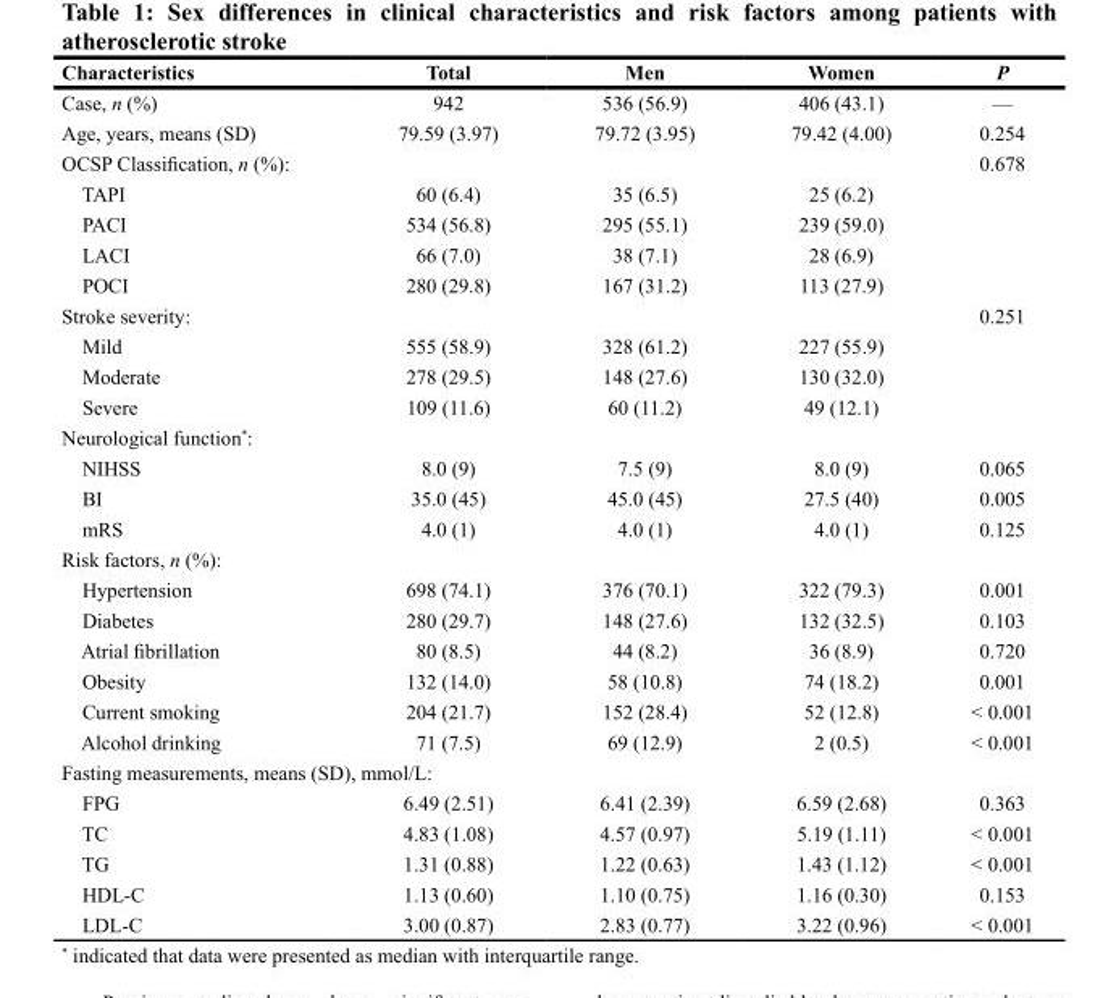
<table><thead><tr><td>Characteristics</td><td>Total</td><td>Men</td><td>Women</td><td>P</td></tr></thead><tbody><tr><td>Case, n (%)</td><td>942</td><td>536 (56.9)</td><td>406 (43.1)</td><td>—</td></tr><tr><td>Age, years, means (SD)</td><td>79.59 (3.97)</td><td>79.72 (3.95)</td><td>79.42 (4.00)</td><td>0.254</td></tr><tr><td>OCSP Classification, n (%):</td><td></td><td></td><td></td><td>0.678</td></tr><tr><td>TAPI</td><td>60 (6.4)</td><td>35 (6.5)</td><td>25 (6.2)</td><td></td></tr><tr><td>PACI</td><td>534 (56.8)</td><td>295 (55.1)</td><td>239 (59.0)</td><td></td></tr><tr><td>LACI</td><td>66 (7.0)</td><td>38 (7.1)</td><td>28 (6.9)</td><td></td></tr><tr><td>POCI</td><td>280 (29.8)</td><td>167 (31.2)</td><td>113 (27.9)</td><td></td></tr><tr><td>Stroke severity:</td><td></td><td></td><td></td><td>0.251</td></tr><tr><td>Mild</td><td>555 (58.9)</td><td>328 (61.2)</td><td>227 (55.9)</td><td></td></tr><tr><td>Moderate</td><td>278 (29.5)</td><td>148 (27.6)</td><td>130 (32.0)</td><td></td></tr><tr><td>Severe</td><td>109 (11.6)</td><td>60 (11.2)</td><td>49 (12.1)</td><td></td></tr><tr><td colspan="5">Neurological function*:</td></tr><tr><td>NIHSS</td><td>8.0 (9)</td><td>7.5 (9)</td><td>8.0 (9)</td><td>0.065</td></tr><tr><td>BI</td><td>35.0 (45)</td><td>45.0 (45)</td><td>27.5 (40)</td><td>0.005</td></tr><tr><td>mRS</td><td>4.0 (1)</td><td>4.0 (1)</td><td>4.0 (1)</td><td>0.125</td></tr><tr><td colspan="5">Risk factors, n (%):</td></tr><tr><td>Hypertension</td><td>698 (74.1)</td><td>376 (70.1)</td><td>322 (79.3)</td><td>0.001</td></tr><tr><td>Diabetes</td><td>280 (29.7)</td><td>148 (27.6)</td><td>132 (32.5)</td><td>0.103</td></tr><tr><td>Atrial fibrillation</td><td>80 (8.5)</td><td>44 (8.2)</td><td>36 (8.9)</td><td>0.720</td></tr><tr><td>Obesity</td><td>132 (14.0)</td><td>58 (10.8)</td><td>74 (18.2)</td><td>0.001</td></tr><tr><td>Current smoking</td><td>204 (21.7)</td><td>152 (28.4)</td><td>52 (12.8)</td><td>&lt; 0.001</td></tr><tr><td>Alcohol drinking</td><td>71 (7.5)</td><td>69 (12.9)</td><td>2 (0.5)</td><td>&lt; 0.001</td></tr><tr><td colspan="5">Fasting measurements, means (SD), mmol/L:</td></tr><tr><td>FPG</td><td>6.49 (2.51)</td><td>6.41 (2.39)</td><td>6.59 (2.68)</td><td>0.363</td></tr><tr><td>TC</td><td>4.83 (1.08)</td><td>4.57 (0.97)</td><td>5.19 (1.11)</td><td>&lt; 0.001</td></tr><tr><td>TG</td><td>1.31 (0.88)</td><td>1.22 (0.63)</td><td>1.43 (1.12)</td><td>&lt; 0.001</td></tr><tr><td>HDL-C</td><td>1.13 (0.60)</td><td>1.10 (0.75)</td><td>1.16 (0.30)</td><td>0.153</td></tr><tr><td>LDL-C</td><td>3.00 (0.87)</td><td>2.83 (0.77)</td><td>3.22 (0.96)</td><td>&lt; 0.001</td></tr></tbody></table>